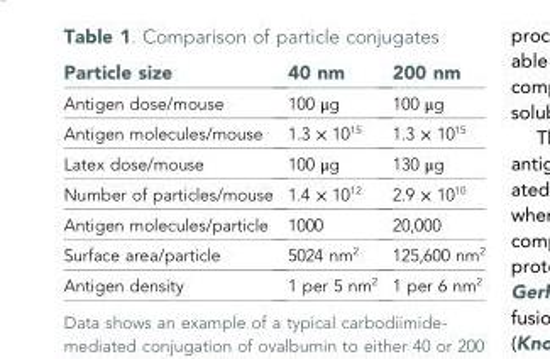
<table><thead><tr><td>Particle size</td><td>40 nm</td><td>200 nm</td></tr></thead><tbody><tr><td>Antigen dose/mouse</td><td>100 μg</td><td>100 μg</td></tr><tr><td>Antigen molecules/mouse</td><td>1.3 × 10<sup>15</sup></td><td>1.3 × 10<sup>15</sup></td></tr><tr><td>Latex dose/mouse</td><td>100 μg</td><td>130 μg</td></tr><tr><td>Number of particles/mouse</td><td>1.4 × 10<sup>12</sup></td><td>2.9 × 10<sup>10</sup></td></tr><tr><td>Antigen molecules/particle</td><td>1000</td><td>20,000</td></tr><tr><td>Surface area/particle</td><td>5024 nm<sup>2</sup></td><td>125,600 nm<sup>2</sup></td></tr><tr><td>Antigen density</td><td>1 per 5 nm<sup>2</sup></td><td>1 per 6 nm<sup>2</sup></td></tr></tbody></table>